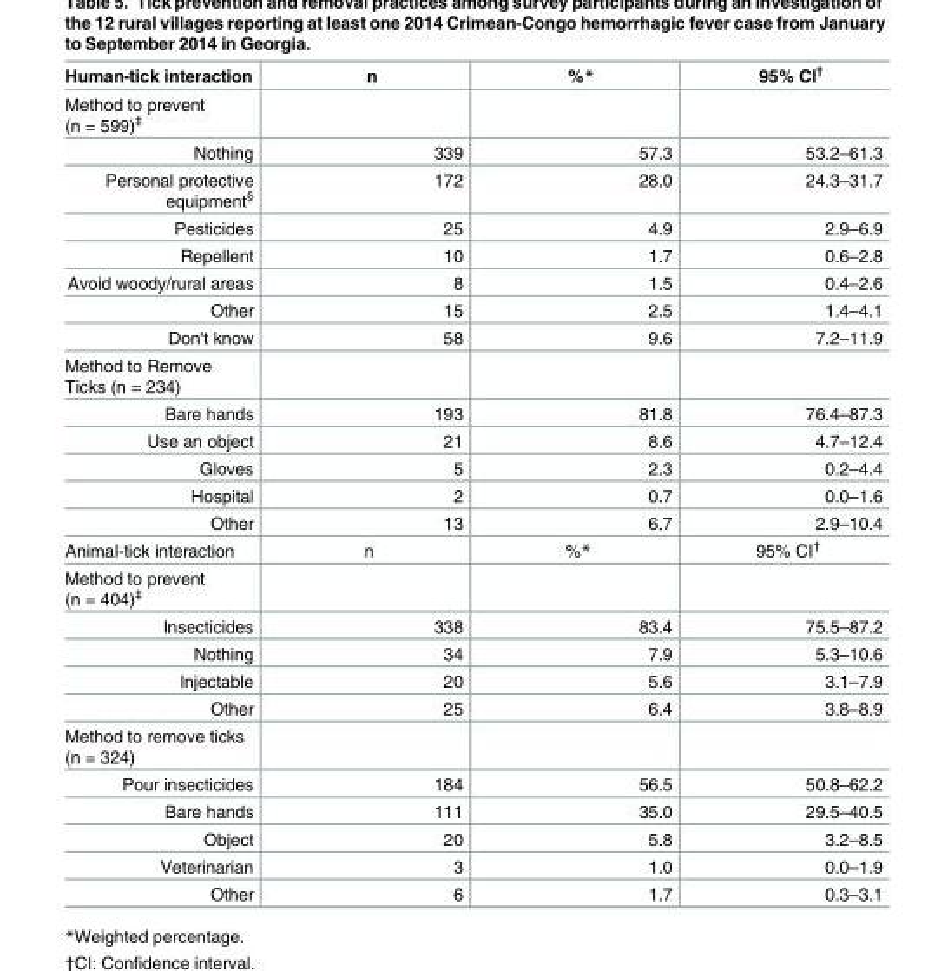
<table><thead><tr><td>Human-tick interaction</td><td>n</td><td>%*</td><td>95% CI<sup>†</sup></td></tr></thead><tbody><tr><td colspan="4">Method to prevent (n = 599)‡</td></tr><tr><td>Nothing</td><td>339</td><td>57.3</td><td>53.2–61.3</td></tr><tr><td>Personal protective equipment<sup>§</sup></td><td>172</td><td>28.0</td><td>24.3–31.7</td></tr><tr><td>Pesticides</td><td>25</td><td>4.9</td><td>2.9–6.9</td></tr><tr><td>Repellent</td><td>10</td><td>1.7</td><td>0.6–2.8</td></tr><tr><td>Avoid woody/rural areas</td><td>8</td><td>1.5</td><td>0.4–2.6</td></tr><tr><td>Other</td><td>15</td><td>2.5</td><td>1.4–4.1</td></tr><tr><td>Don&#x27;t know</td><td>58</td><td>9.6</td><td>7.2–11.9</td></tr><tr><td colspan="4">Method to Remove Ticks (n = 234)</td></tr><tr><td>Bare hands</td><td>193</td><td>81.8</td><td>76.4–87.3</td></tr><tr><td>Use an object</td><td>21</td><td>8.6</td><td>4.7–12.4</td></tr><tr><td>Gloves</td><td>5</td><td>2.3</td><td>0.2–4.4</td></tr><tr><td>Hospital</td><td>2</td><td>0.7</td><td>0.0–1.6</td></tr><tr><td>Other</td><td>13</td><td>6.7</td><td>2.9–10.4</td></tr><tr><td>Animal-tick interaction</td><td>n</td><td>%*</td><td>95% CI<sup>†</sup></td></tr><tr><td colspan="4">Method to prevent (n = 404)‡</td></tr><tr><td>Insecticides</td><td>338</td><td>83.4</td><td>75.5–87.2</td></tr><tr><td>Nothing</td><td>34</td><td>7.9</td><td>5.3–10.6</td></tr><tr><td>Injectable</td><td>20</td><td>5.6</td><td>3.1–7.9</td></tr><tr><td>Other</td><td>25</td><td>6.4</td><td>3.8–8.9</td></tr><tr><td colspan="4">Method to remove ticks (n = 324)</td></tr><tr><td>Pour insecticides</td><td>184</td><td>56.5</td><td>50.8–62.2</td></tr><tr><td>Bare hands</td><td>111</td><td>35.0</td><td>29.5–40.5</td></tr><tr><td>Object</td><td>20</td><td>5.8</td><td>3.2–8.5</td></tr><tr><td>Veterinarian</td><td>3</td><td>1.0</td><td>0.0–1.9</td></tr><tr><td>Other</td><td>6</td><td>1.7</td><td>0.3–3.1</td></tr></tbody></table>